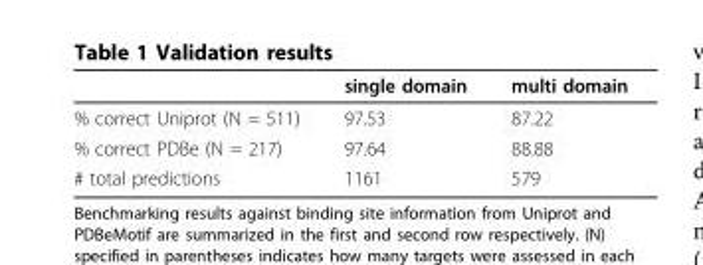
<table><thead><tr><td></td><td>single domain</td><td>multi domain</td></tr></thead><tbody><tr><td>% correct Uniprot (N = 511)</td><td>97.53</td><td>87.22</td></tr><tr><td>% correct PDBe (N = 217)</td><td>97.64</td><td>88.88</td></tr><tr><td># total predictions</td><td>1161</td><td>579</td></tr></tbody></table>